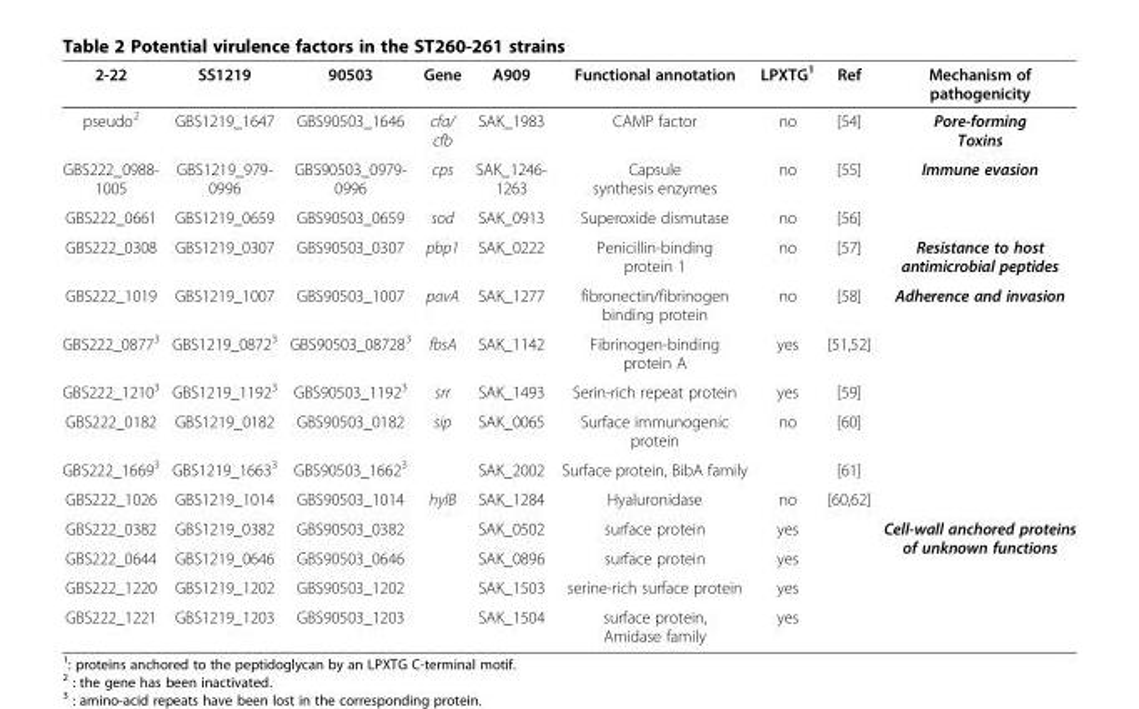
<table><thead><tr><td>2-22</td><td>SS1219</td><td>90503</td><td>Gene</td><td>A909</td><td>Functional annotation</td><td>LPXTG<sup>1</sup></td><td>Ref</td><td>Mechanism of pathogenicity</td></tr></thead><tbody><tr><td>pseudo<sup>2</sup></td><td>GBS1219_1647</td><td>GBS90503_1646</td><td>cfa/ cfb</td><td>SAK_1983</td><td>CAMP factor</td><td>no</td><td>[54]</td><td>Pore-forming Toxins</td></tr><tr><td>GBS222_0988- 1005</td><td>GBS1219_979- 0996</td><td>GBS90503_0979- 0996</td><td>cps</td><td>SAK_1246- 1263</td><td>Capsule synthesis enzymes</td><td>no</td><td>[55]</td><td rowspan="2">Immune evasion</td></tr><tr><td>GBS222_0661</td><td>GBS1219_0659</td><td>GBS90503_0659</td><td>sod</td><td>SAK_0913</td><td>Superoxide dismutase</td><td>no</td><td>[56]</td></tr><tr><td>GBS222_0308</td><td>GBS1219_0307</td><td>GBS90503_0307</td><td>pbp1</td><td>SAK_0222</td><td>Penicillin-binding protein 1</td><td>no</td><td>[57]</td><td>Resistance to host antimicrobial peptides</td></tr><tr><td>GBS222_1019</td><td>GBS1219_1007</td><td>GBS90503_1007</td><td>pavA</td><td>SAK_1277</td><td>fibronectin/fibrinogen binding protein</td><td>no</td><td>[58]</td><td rowspan="6">Adherence and invasion</td></tr><tr><td>GBS222_0877<sup>3</sup></td><td>GBS1219_0872<sup>3</sup></td><td>GBS90503_08728<sup>3</sup></td><td>fbsA</td><td>SAK_1142</td><td>Fibrinogen-binding protein A</td><td>yes</td><td>[51,52]</td></tr><tr><td>GBS222_1210<sup>3</sup></td><td>GBS1219_1192<sup>3</sup></td><td>GBS90503_1192<sup>3</sup></td><td>srr</td><td>SAK_1493</td><td>Serin-rich repeat protein</td><td>yes</td><td>[59]</td></tr><tr><td>GBS222_0182</td><td>GBS1219_0182</td><td>GBS90503_0182</td><td>sip</td><td>SAK_0065</td><td>Surface immunogenic protein</td><td>no</td><td>[60]</td></tr><tr><td>GBS222_1669<sup>3</sup></td><td>GBS1219_1663<sup>3</sup></td><td>GBS90503_1662<sup>3</sup></td><td></td><td>SAK_2002</td><td>Surface protein, BibA family</td><td></td><td>[61]</td></tr><tr><td>GBS222_1026</td><td>GBS1219_1014</td><td>GBS90503_1014</td><td>hylB</td><td>SAK_1284</td><td>Hyaluronidase</td><td>no</td><td>[60,62]</td></tr><tr><td>GBS222_0382</td><td>GBS1219_0382</td><td>GBS90503_0382</td><td></td><td>SAK_0502</td><td>surface protein</td><td>yes</td><td></td><td rowspan="4">Cell-wall anchored proteins of unknown functions</td></tr><tr><td>GBS222_0644</td><td>GBS1219_0646</td><td>GBS90503_0646</td><td></td><td>SAK_0896</td><td>surface protein</td><td>yes</td><td></td></tr><tr><td>GBS222_1220</td><td>GBS1219_1202</td><td>GBS90503_1202</td><td></td><td>SAK_1503</td><td>serine-rich surface protein</td><td>yes</td><td></td></tr><tr><td>GBS222_1221</td><td>GBS1219_1203</td><td>GBS90503_1203</td><td></td><td>SAK_1504</td><td>surface protein, Amidase family</td><td>yes</td><td></td></tr></tbody></table>